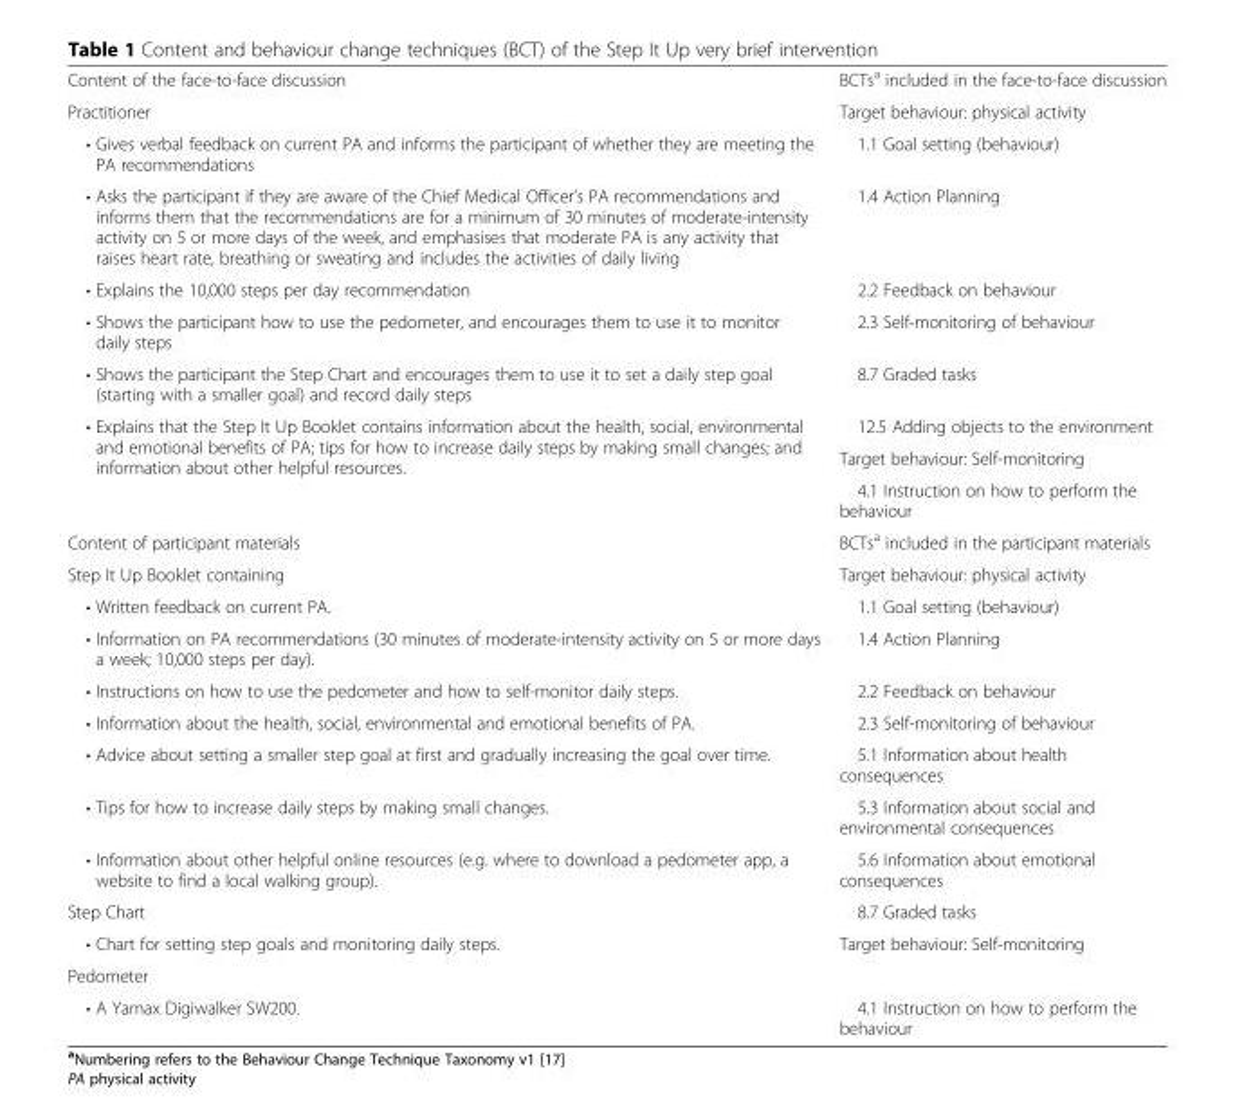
<table><tbody><tr><td>Content of the face-to-face discussion</td><td>BCTs<sup>a</sup> included in the face-to-face discussion</td></tr><tr><td>Practitioner</td><td>Target behaviour: physical activity</td></tr><tr><td>• Gives verbal feedback on current PA and informs the participant of whether they are meeting the PA recommendations</td><td>1.1 Goal setting (behaviour)</td></tr><tr><td>• Asks the participant if they are aware of the Chief Medical Officer’s PA recommendations and informs them that the recommendations are for a minimum of 30 minutes of moderate-intensity activity on 5 or more days of the week, and emphasises that moderate PA is any activity that raises heart rate, breathing or sweating and includes the activities of daily living</td><td>1.4 Action Planning</td></tr><tr><td>• Explains the 10,000 steps per day recommendation</td><td>2.2 Feedback on behaviour</td></tr><tr><td>• Shows the participant how to use the pedometer, and encourages them to use it to monitor daily steps</td><td>2.3 Self-monitoring of behaviour</td></tr><tr><td>• Shows the participant the Step Chart and encourages them to use it to set a daily step goal (starting with a smaller goal) and record daily steps</td><td>8.7 Graded tasks</td></tr><tr><td rowspan="3">• Explains that the Step It Up Booklet contains information about the health, social, environmental and emotional benefits of PA; tips for how to increase daily steps by making small changes; and information about other helpful resources.</td><td>12.5 Adding objects to the environment</td></tr><tr><td>Target behaviour: Self-monitoring</td></tr><tr><td>4.1 Instruction on how to perform the behaviour</td></tr><tr><td>Content of participant materials</td><td>BCTs<sup>a</sup> included in the participant materials</td></tr><tr><td>Step It Up Booklet containing</td><td>Target behaviour: physical activity</td></tr><tr><td>• Written feedback on current PA.</td><td>1.1 Goal setting (behaviour)</td></tr><tr><td>• Information on PA recommendations (30 minutes of moderate-intensity activity on 5 or more days a week; 10,000 steps per day).</td><td>1.4 Action Planning</td></tr><tr><td>• Instructions on how to use the pedometer and how to self-monitor daily steps.</td><td>2.2 Feedback on behaviour</td></tr><tr><td>• Information about the health, social, environmental and emotional benefits of PA.</td><td>2.3 Self-monitoring of behaviour</td></tr><tr><td>• Advice about setting a smaller step goal at first and gradually increasing the goal over time.</td><td>5.1 Information about health consequences</td></tr><tr><td>• Tips for how to increase daily steps by making small changes.</td><td>5.3 Information about social and environmental consequences</td></tr><tr><td>• Information about other helpful online resources (e.g. where to download a pedometer app, a website to find a local walking group).</td><td>5.6 Information about emotional consequences</td></tr><tr><td>Step Chart</td><td>8.7 Graded tasks</td></tr><tr><td>• Chart for setting step goals and monitoring daily steps.</td><td>Target behaviour: Self-monitoring</td></tr><tr><td colspan="2">Pedometer</td></tr><tr><td>• A Yamax Digiwalker SW200.</td><td>4.1 Instruction on how to perform the behaviour</td></tr></tbody></table>